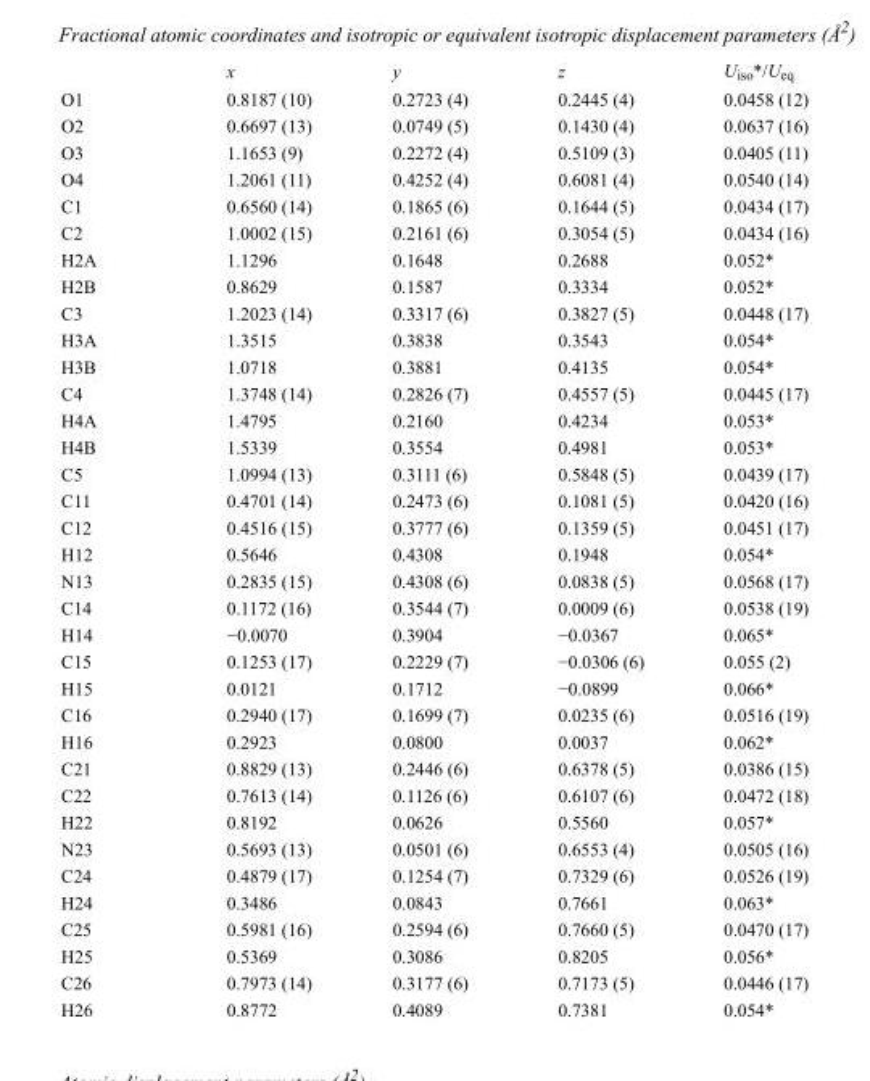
<table><thead><tr><td></td><td>x</td><td>y</td><td>z</td><td>U<sub>iso</sub>*/U<sub>eq</sub></td></tr></thead><tbody><tr><td>O1</td><td>0.8187 (10)</td><td>0.2723 (4)</td><td>0.2445 (4)</td><td>0.0458 (12)</td></tr><tr><td>O2</td><td>0.6697 (13)</td><td>0.0749 (5)</td><td>0.1430 (4)</td><td>0.0637 (16)</td></tr><tr><td>O3</td><td>1.1653 (9)</td><td>0.2272 (4)</td><td>0.5109 (3)</td><td>0.0405 (11)</td></tr><tr><td>O4</td><td>1.2061 (11)</td><td>0.4252 (4)</td><td>0.6081 (4)</td><td>0.0540 (14)</td></tr><tr><td>C1</td><td>0.6560 (14)</td><td>0.1865 (6)</td><td>0.1644 (5)</td><td>0.0434 (17)</td></tr><tr><td>C2</td><td>1.0002 (15)</td><td>0.2161 (6)</td><td>0.3054 (5)</td><td>0.0434 (16)</td></tr><tr><td>H2A</td><td>1.1296</td><td>0.1648</td><td>0.2688</td><td>0.052*</td></tr><tr><td>H2B</td><td>0.8629</td><td>0.1587</td><td>0.3334</td><td>0.052*</td></tr><tr><td>C3</td><td>1.2023 (14)</td><td>0.3317 (6)</td><td>0.3827 (5)</td><td>0.0448 (17)</td></tr><tr><td>H3A</td><td>1.3515</td><td>0.3838</td><td>0.3543</td><td>0.054*</td></tr><tr><td>H3B</td><td>1.0718</td><td>0.3881</td><td>0.4135</td><td>0.054*</td></tr><tr><td>C4</td><td>1.3748 (14)</td><td>0.2826 (7)</td><td>0.4557 (5)</td><td>0.0445 (17)</td></tr><tr><td>H4A</td><td>1.4795</td><td>0.2160</td><td>0.4234</td><td>0.053*</td></tr><tr><td>H4B</td><td>1.5339</td><td>0.3554</td><td>0.4981</td><td>0.053*</td></tr><tr><td>C5</td><td>1.0994 (13)</td><td>0.3111 (6)</td><td>0.5848 (5)</td><td>0.0439 (17)</td></tr><tr><td>C11</td><td>0.4701 (14)</td><td>0.2473 (6)</td><td>0.1081 (5)</td><td>0.0420 (16)</td></tr><tr><td>C12</td><td>0.4516 (15)</td><td>0.3777 (6)</td><td>0.1359 (5)</td><td>0.0451 (17)</td></tr><tr><td>H12</td><td>0.5646</td><td>0.4308</td><td>0.1948</td><td>0.054*</td></tr><tr><td>N13</td><td>0.2835 (15)</td><td>0.4308 (6)</td><td>0.0838 (5)</td><td>0.0568 (17)</td></tr><tr><td>C14</td><td>0.1172 (16)</td><td>0.3544 (7)</td><td>0.0009 (6)</td><td>0.0538 (19)</td></tr><tr><td>H14</td><td>−0.0070</td><td>0.3904</td><td>−0.0367</td><td>0.065*</td></tr><tr><td>C15</td><td>0.1253 (17)</td><td>0.2229 (7)</td><td>−0.0306 (6)</td><td>0.055 (2)</td></tr><tr><td>H15</td><td>0.0121</td><td>0.1712</td><td>−0.0899</td><td>0.066*</td></tr><tr><td>C16</td><td>0.2940 (17)</td><td>0.1699 (7)</td><td>0.0235 (6)</td><td>0.0516 (19)</td></tr><tr><td>H16</td><td>0.2923</td><td>0.0800</td><td>0.0037</td><td>0.062*</td></tr><tr><td>C21</td><td>0.8829 (13)</td><td>0.2446 (6)</td><td>0.6378 (5)</td><td>0.0386 (15)</td></tr><tr><td>C22</td><td>0.7613 (14)</td><td>0.1126 (6)</td><td>0.6107 (6)</td><td>0.0472 (18)</td></tr><tr><td>H22</td><td>0.8192</td><td>0.0626</td><td>0.5560</td><td>0.057*</td></tr><tr><td>N23</td><td>0.5693 (13)</td><td>0.0501 (6)</td><td>0.6553 (4)</td><td>0.0505 (16)</td></tr><tr><td>C24</td><td>0.4879 (17)</td><td>0.1254 (7)</td><td>0.7329 (6)</td><td>0.0526 (19)</td></tr><tr><td>H24</td><td>0.3486</td><td>0.0843</td><td>0.7661</td><td>0.063*</td></tr><tr><td>C25</td><td>0.5981 (16)</td><td>0.2594 (6)</td><td>0.7660 (5)</td><td>0.0470 (17)</td></tr><tr><td>H25</td><td>0.5369</td><td>0.3086</td><td>0.8205</td><td>0.056*</td></tr><tr><td>C26</td><td>0.7973 (14)</td><td>0.3177 (6)</td><td>0.7173 (5)</td><td>0.0446 (17)</td></tr><tr><td>H26</td><td>0.8772</td><td>0.4089</td><td>0.7381</td><td>0.054*</td></tr></tbody></table>